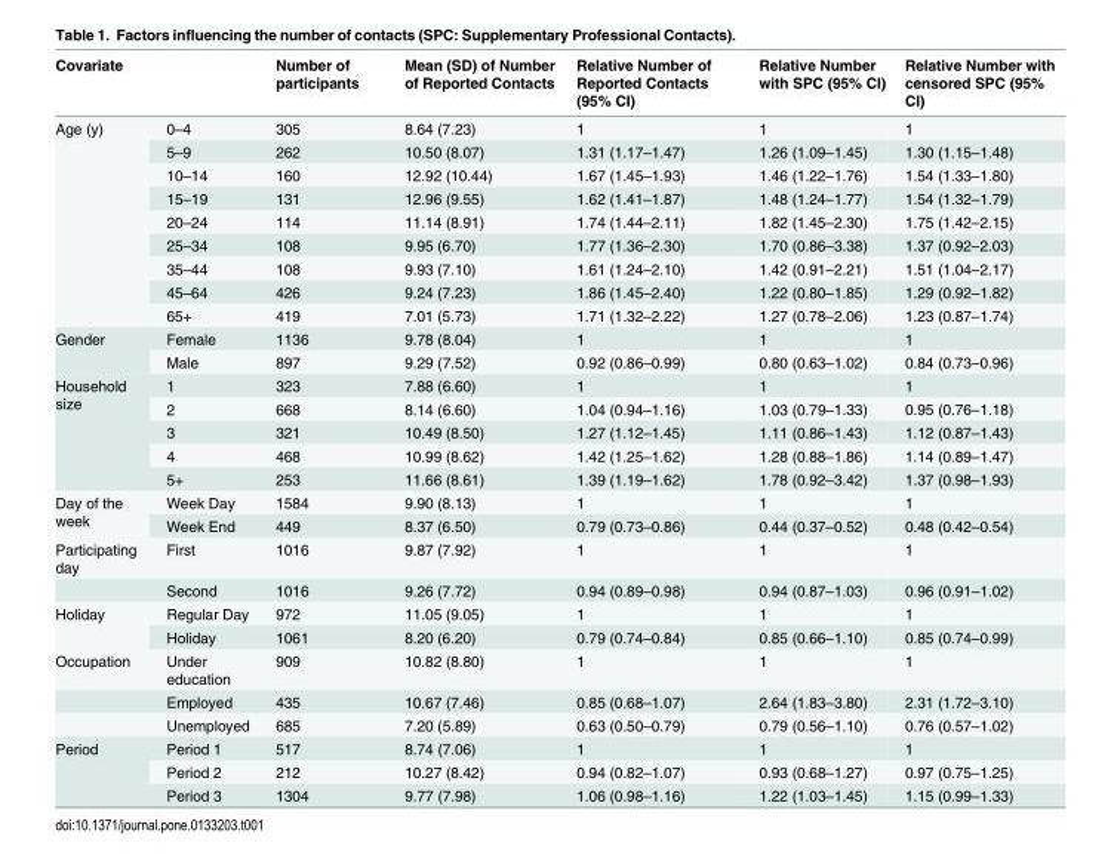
<table><thead><tr><td>Covariate</td><td></td><td>Number of participants</td><td>Mean (SD) of Number of Reported Contacts</td><td>Relative Number of Reported Contacts (95% CI)</td><td>Relative Number with SPC (95% CI)</td><td>Relative Number with censored SPC (95% CI)</td></tr></thead><tbody><tr><td rowspan="9">Age (y)</td><td>0–4</td><td>305</td><td>8.64 (7.23)</td><td>1</td><td>1</td><td>1</td></tr><tr><td>5–9</td><td>262</td><td>10.50 (8.07)</td><td>1.31 (1.17–1.47)</td><td>1.26 (1.09–1.45)</td><td>1.30 (1.15–1.48)</td></tr><tr><td>10–14</td><td>160</td><td>12.92 (10.44)</td><td>1.67 (1.45–1.93)</td><td>1.46 (1.22–1.76)</td><td>1.54 (1.33–1.80)</td></tr><tr><td>15–19</td><td>131</td><td>12.96 (9.55)</td><td>1.62 (1.41–1.87)</td><td>1.48 (1.24–1.77)</td><td>1.54 (1.32–1.79)</td></tr><tr><td>20–24</td><td>114</td><td>11.14 (8.91)</td><td>1.74 (1.44–2.11)</td><td>1.82 (1.45–2.30)</td><td>1.75 (1.42–2.15)</td></tr><tr><td>25–34</td><td>108</td><td>9.95 (6.70)</td><td>1.77 (1.36–2.30)</td><td>1.70 (0.86–3.38)</td><td>1.37 (0.92–2.03)</td></tr><tr><td>35–44</td><td>108</td><td>9.93 (7.10)</td><td>1.61 (1.24–2.10)</td><td>1.42 (0.91–2.21)</td><td>1.51 (1.04–2.17)</td></tr><tr><td>45–64</td><td>426</td><td>9.24 (7.23)</td><td>1.86 (1.45–2.40)</td><td>1.22 (0.80–1.85)</td><td>1.29 (0.92–1.82)</td></tr><tr><td>65+</td><td>419</td><td>7.01 (5.73)</td><td>1.71 (1.32–2.22)</td><td>1.27 (0.78–2.06)</td><td>1.23 (0.87–1.74)</td></tr><tr><td rowspan="2">Gender</td><td>Female</td><td>1136</td><td>9.78 (8.04)</td><td>1</td><td>1</td><td>1</td></tr><tr><td>Male</td><td>897</td><td>9.29 (7.52)</td><td>0.92 (0.86–0.99)</td><td>0.80 (0.63–1.02)</td><td>0.84 (0.73–0.96)</td></tr><tr><td rowspan="5">Household size</td><td>1</td><td>323</td><td>7.88 (6.60)</td><td>1</td><td>1</td><td>1</td></tr><tr><td>2</td><td>668</td><td>8.14 (6.60)</td><td>1.04 (0.94–1.16)</td><td>1.03 (0.79–1.33)</td><td>0.95 (0.76–1.18)</td></tr><tr><td>3</td><td>321</td><td>10.49 (8.50)</td><td>1.27 (1.12–1.45)</td><td>1.11 (0.86–1.43)</td><td>1.12 (0.87–1.43)</td></tr><tr><td>4</td><td>468</td><td>10.99 (8.62)</td><td>1.42 (1.25–1.62)</td><td>1.28 (0.88–1.86)</td><td>1.14 (0.89–1.47)</td></tr><tr><td>5+</td><td>253</td><td>11.66 (8.61)</td><td>1.39 (1.19–1.62)</td><td>1.78 (0.92–3.42)</td><td>1.37 (0.98–1.93)</td></tr><tr><td rowspan="2">Day of the week</td><td>Week Day</td><td>1584</td><td>9.90 (8.13)</td><td>1</td><td>1</td><td>1</td></tr><tr><td>Week End</td><td>449</td><td>8.37 (6.50)</td><td>0.79 (0.73–0.86)</td><td>0.44 (0.37–0.52)</td><td>0.48 (0.42–0.54)</td></tr><tr><td rowspan="2">Participating day</td><td>First</td><td>1016</td><td>9.87 (7.92)</td><td>1</td><td>1</td><td>1</td></tr><tr><td>Second</td><td>1016</td><td>9.26 (7.72)</td><td>0.94 (0.89–0.98)</td><td>0.94 (0.87–1.03)</td><td>0.96 (0.91–1.02)</td></tr><tr><td rowspan="2">Holiday</td><td>Regular Day</td><td>972</td><td>11.05 (9.05)</td><td>1</td><td>1</td><td>1</td></tr><tr><td>Holiday</td><td>1061</td><td>8.20 (6.20)</td><td>0.79 (0.74–0.84)</td><td>0.85 (0.66–1.10)</td><td>0.85 (0.74–0.99)</td></tr><tr><td rowspan="3">Occupation</td><td>Under education</td><td>909</td><td>10.82 (8.80)</td><td>1</td><td>1</td><td>1</td></tr><tr><td>Employed</td><td>435</td><td>10.67 (7.46)</td><td>0.85 (0.68–1.07)</td><td>2.64 (1.83–3.80)</td><td>2.31 (1.72–3.10)</td></tr><tr><td>Unemployed</td><td>685</td><td>7.20 (5.89)</td><td>0.63 (0.50–0.79)</td><td>0.79 (0.56–1.10)</td><td>0.76 (0.57–1.02)</td></tr><tr><td rowspan="3">Period</td><td>Period 1</td><td>517</td><td>8.74 (7.06)</td><td>1</td><td>1</td><td>1</td></tr><tr><td>Period 2</td><td>212</td><td>10.27 (8.42)</td><td>0.94 (0.82–1.07)</td><td>0.93 (0.68–1.27)</td><td>0.97 (0.75–1.25)</td></tr><tr><td>Period 3</td><td>1304</td><td>9.77 (7.98)</td><td>1.06 (0.98–1.16)</td><td>1.22 (1.03–1.45)</td><td>1.15 (0.99–1.33)</td></tr></tbody></table>